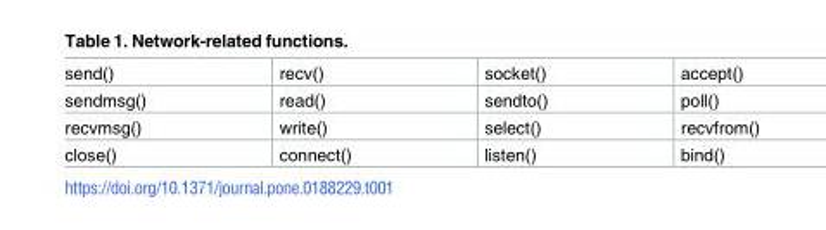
<table><tbody><tr><td>send()</td><td>recv()</td><td>socket()</td><td>accept()</td></tr><tr><td>sendmsg()</td><td>read()</td><td>sendto()</td><td>poll()</td></tr><tr><td>recvmsg()</td><td>write()</td><td>select()</td><td>recvfrom()</td></tr><tr><td>close()</td><td>connect()</td><td>listen()</td><td>bind()</td></tr></tbody></table>